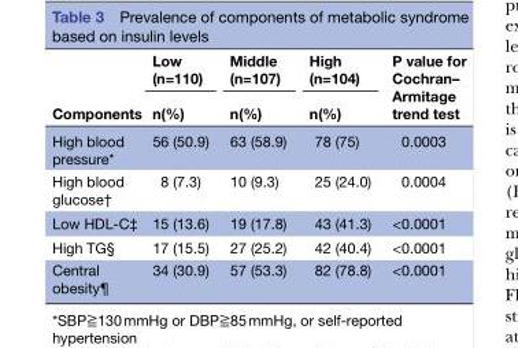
<table><thead><tr><td rowspan="2">Components</td><td rowspan="2">Low (n=110) n(%)</td><td rowspan="2">Middle (n=107) n(%)</td><td rowspan="2">High (n=104) n(%)</td><td rowspan="2">P value for Cochran– Armitage trend test</td></tr><tr></tr></thead><tbody><tr><td>High blood pressure*</td><td>56 (50.9)</td><td>63 (58.9)</td><td>78 (75)</td><td>0.0003</td></tr><tr><td>High blood glucose†</td><td>8 (7.3)</td><td>10 (9.3)</td><td>25 (24.0)</td><td>0.0004</td></tr><tr><td>Low HDL-C‡</td><td>15 (13.6)</td><td>19 (17.8)</td><td>43 (41.3)</td><td>&lt;0.0001</td></tr><tr><td>High TG§</td><td>17 (15.5)</td><td>27 (25.2)</td><td>42 (40.4)</td><td>&lt;0.0001</td></tr><tr><td>Central obesity¶</td><td>34 (30.9)</td><td>57 (53.3)</td><td>82 (78.8)</td><td>&lt;0.0001</td></tr></tbody></table>